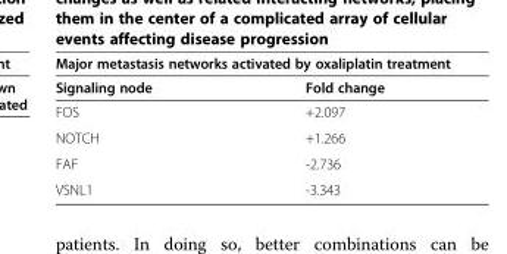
<table><thead><tr><td colspan="2">Major metastasis networks activated by oxaliplatin treatment</td></tr><tr><td>Signaling node</td><td>Fold change</td></tr></thead><tbody><tr><td>FOS</td><td>+2.097</td></tr><tr><td>NOTCH</td><td>+1.266</td></tr><tr><td>FAF</td><td>-2.736</td></tr><tr><td>VSNL1</td><td>-3.343</td></tr></tbody></table>